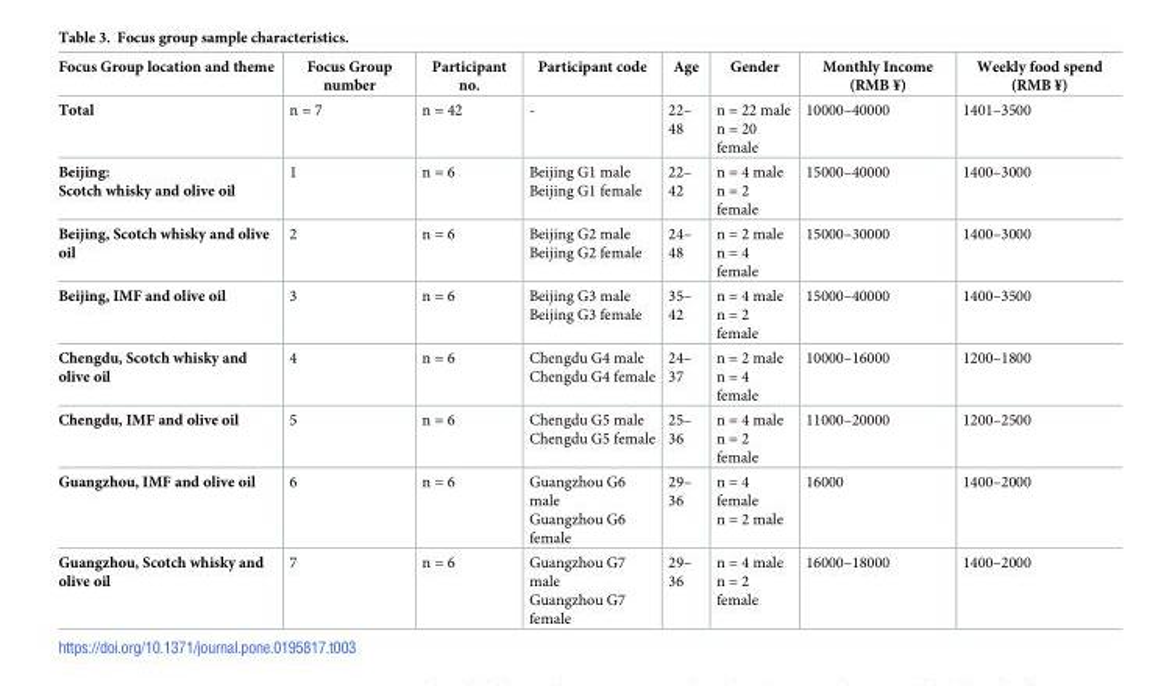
<table><thead><tr><td>Focus Group location and theme</td><td>Focus Group number</td><td>Participant no.</td><td>Participant code</td><td>Age</td><td>Gender</td><td>Monthly Income (RMB ¥)</td><td>Weekly food spend (RMB ¥)</td></tr></thead><tbody><tr><td>Total</td><td>n = 7</td><td>n = 42</td><td>-</td><td>22– 48</td><td>n = 22 male n = 20 female</td><td>10000–40000</td><td>1401–3500</td></tr><tr><td>Beijing: Scotch whisky and olive oil</td><td>1</td><td>n = 6</td><td>Beijing G1 male Beijing G1 female</td><td>22– 42</td><td>n = 4 male n = 2 female</td><td>15000–40000</td><td>1400–3000</td></tr><tr><td>Beijing, Scotch whisky and olive oil</td><td>2</td><td>n = 6</td><td>Beijing G2 male Beijing G2 female</td><td>24– 48</td><td>n = 2 male n = 4 female</td><td>15000–30000</td><td>1400–3000</td></tr><tr><td>Beijing, IMF and olive oil</td><td>3</td><td>n = 6</td><td>Beijing G3 male Beijing G3 female</td><td>35– 42</td><td>n = 4 male n = 2 female</td><td>15000–40000</td><td>1400–3500</td></tr><tr><td>Chengdu, Scotch whisky and olive oil</td><td>4</td><td>n = 6</td><td>Chengdu G4 male Chengdu G4 female</td><td>24– 37</td><td>n = 2 male n = 4 female</td><td>10000–16000</td><td>1200–1800</td></tr><tr><td>Chengdu, IMF and olive oil</td><td>5</td><td>n = 6</td><td>Chengdu G5 male Chengdu G5 female</td><td>25– 36</td><td>n = 4 male n = 2 female</td><td>11000–20000</td><td>1200–2500</td></tr><tr><td>Guangzhou, IMF and olive oil</td><td>6</td><td>n = 6</td><td>Guangzhou G6 male Guangzhou G6 female</td><td>29– 36</td><td>n = 4 female n = 2 male</td><td>16000</td><td>1400–2000</td></tr><tr><td>Guangzhou, Scotch whisky and olive oil</td><td>7</td><td>n = 6</td><td>Guangzhou G7 male Guangzhou G7 female</td><td>29– 36</td><td>n = 4 male n = 2 female</td><td>16000–18000</td><td>1400–2000</td></tr></tbody></table>